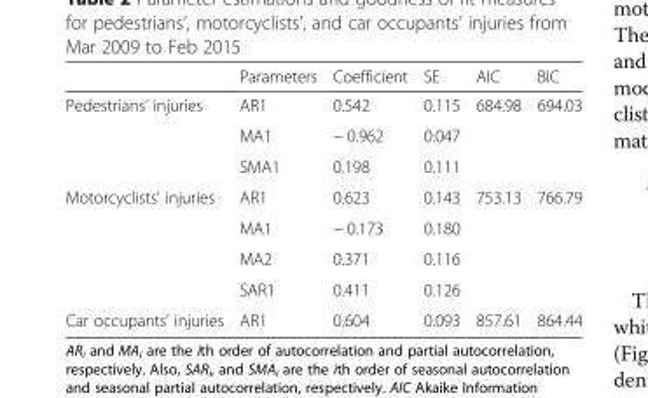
<table><thead><tr><td></td><td>Parameters</td><td>Coefficient</td><td>SE</td><td>AIC</td><td>BIC</td></tr></thead><tbody><tr><td rowspan="3">Pedestrians’ injuries</td><td>AR1</td><td>0.542</td><td>0.115</td><td>684.98</td><td>694.03</td></tr><tr><td>MA1</td><td>− 0.962</td><td>0.047</td><td></td><td></td></tr><tr><td>SMA1</td><td>0.198</td><td>0.111</td><td></td><td></td></tr><tr><td rowspan="4">Motorcyclists’ injuries</td><td>AR1</td><td>0.623</td><td>0.143</td><td>753.13</td><td>766.79</td></tr><tr><td>MA1</td><td>− 0.173</td><td>0.180</td><td></td><td></td></tr><tr><td>MA2</td><td>0.371</td><td>0.116</td><td></td><td></td></tr><tr><td>SAR1</td><td>0.411</td><td>0.126</td><td></td><td></td></tr><tr><td>Car occupants’ injuries</td><td>AR1</td><td>0.604</td><td>0.093</td><td>857.61</td><td>864.44</td></tr></tbody></table>